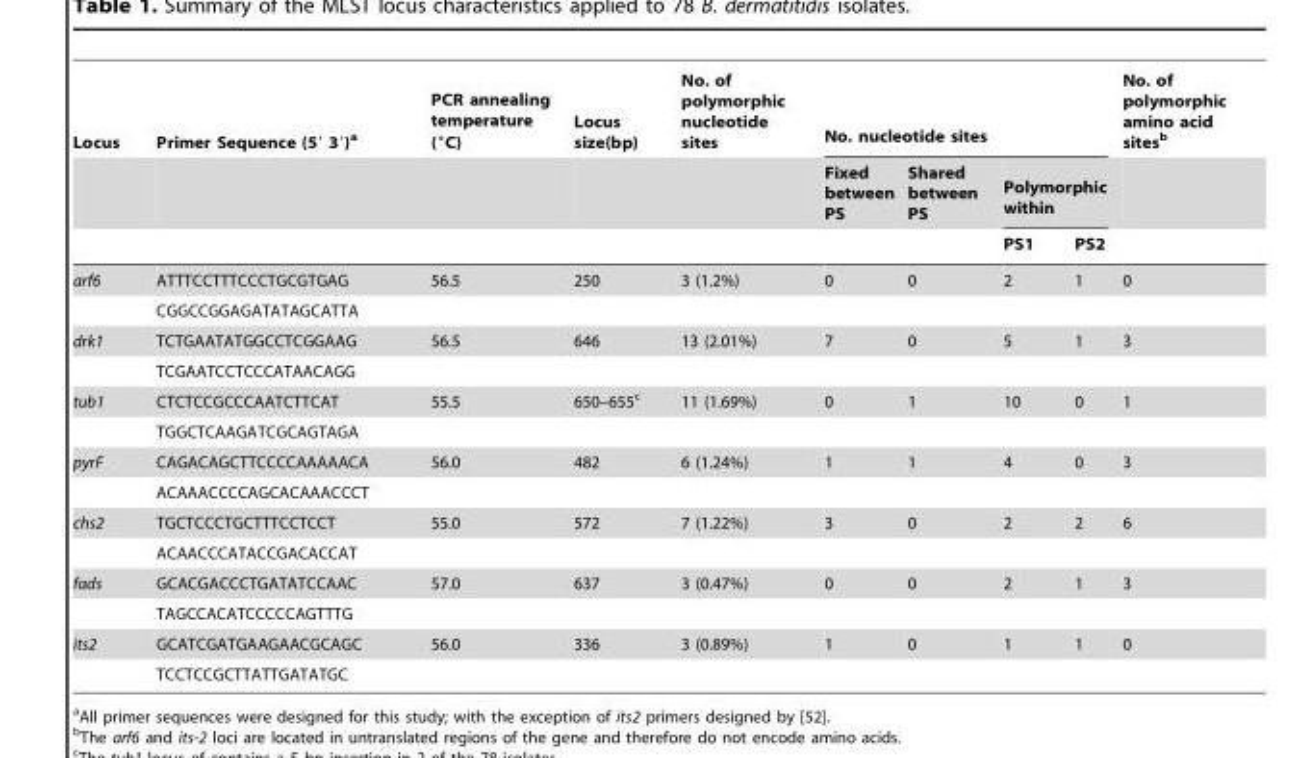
<table><thead><tr><td rowspan="3">Locus</td><td rowspan="3">Primer Sequence (5′ 3′)<sup>a</sup></td><td rowspan="3">PCR annealing temperature (°C)</td><td rowspan="3">Locus size(bp)</td><td rowspan="3">No. of polymorphic nucleotide sites</td><td colspan="4">No. nucleotide sites</td><td rowspan="3">No. of polymorphic amino acid sites<sup>b</sup></td></tr><tr><td rowspan="2">Fixed between PS</td><td rowspan="2">Shared between PS</td><td colspan="2">Polymorphic within</td></tr><tr><td>PS1</td><td>PS2</td></tr></thead><tbody><tr><td rowspan="2">arf6</td><td>ATTTCCTTTCCCTGCGTGAG</td><td>56.5</td><td>250</td><td>3 (1.2%)</td><td>0</td><td>0</td><td>2</td><td>1</td><td>0</td></tr><tr><td>CGGCCGGAGATATAGCATTA</td><td></td><td></td><td></td><td></td><td></td><td></td><td></td><td></td></tr><tr><td rowspan="2">drk1</td><td>TCTGAATATGGCCTCGGAAG</td><td>56.5</td><td>646</td><td>13 (2.01%)</td><td>7</td><td>0</td><td>5</td><td>1</td><td>3</td></tr><tr><td>TCGAATCCTCCCATAACAGG</td><td></td><td></td><td></td><td></td><td></td><td></td><td></td><td></td></tr><tr><td rowspan="2">tub1</td><td>CTCTCCGCCCAATCTTCAT</td><td>55.5</td><td>650–655<sup>c</sup></td><td>11 (1.69%)</td><td>0</td><td>1</td><td>10</td><td>0</td><td>1</td></tr><tr><td>TGGCTCAAGATCGCAGTAGA</td><td></td><td></td><td></td><td></td><td></td><td></td><td></td><td></td></tr><tr><td rowspan="2">pyrF</td><td>CAGACAGCTTCCCCAAAAACA</td><td>56.0</td><td>482</td><td>6 (1.24%)</td><td>1</td><td>1</td><td>4</td><td>0</td><td>3</td></tr><tr><td>ACAAACCCCAGCACAAACCCT</td><td></td><td></td><td></td><td></td><td></td><td></td><td></td><td></td></tr><tr><td rowspan="2">chs2</td><td>TGCTCCCTGCTTTCCTCCT</td><td>55.0</td><td>572</td><td>7 (1.22%)</td><td>3</td><td>0</td><td>2</td><td>2</td><td>6</td></tr><tr><td>ACAACCCATACCGACACCAT</td><td></td><td></td><td></td><td></td><td></td><td></td><td></td><td></td></tr><tr><td rowspan="2">fads</td><td>GCACGACCCTGATATCCAAC</td><td>57.0</td><td>637</td><td>3 (0.47%)</td><td>0</td><td>0</td><td>2</td><td>1</td><td>3</td></tr><tr><td>TAGCCACATCCCCCAGTTTG</td><td></td><td></td><td></td><td></td><td></td><td></td><td></td><td></td></tr><tr><td rowspan="2">its2</td><td>GCATCGATGAAGAACGCAGC</td><td>56.0</td><td>336</td><td>3 (0.89%)</td><td>1</td><td>0</td><td>1</td><td>1</td><td>0</td></tr><tr><td>TCCTCCGCTTATTGATATGC</td><td></td><td></td><td></td><td></td><td></td><td></td><td></td><td></td></tr></tbody></table>